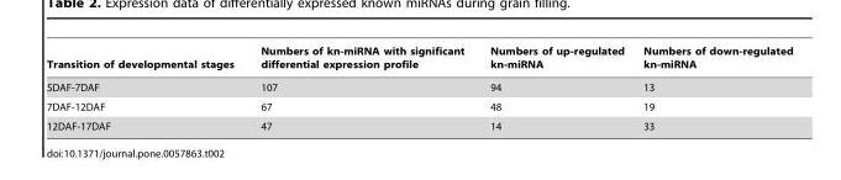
<table><thead><tr><td>Transition of developmental stages</td><td>Numbers of kn-miRNA with significant differential expression profile</td><td>Numbers of up-regulated kn-miRNA</td><td>Numbers of down-regulated kn-miRNA</td></tr></thead><tbody><tr><td>5DAF-7DAF</td><td>107</td><td>94</td><td>13</td></tr><tr><td>7DAF-12DAF</td><td>67</td><td>48</td><td>19</td></tr><tr><td>12DAF-17DAF</td><td>47</td><td>14</td><td>33</td></tr></tbody></table>